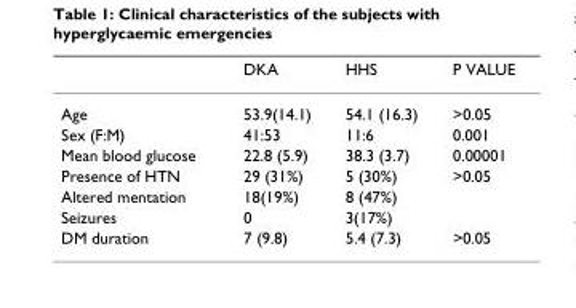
<table><thead><tr><td></td><td>DKA</td><td>HHS</td><td>P VALUE</td></tr></thead><tbody><tr><td>Age</td><td>53.9(14.1)</td><td>54.1 (16.3)</td><td>&gt;0.05</td></tr><tr><td>Sex (F:M)</td><td>41:53</td><td>11:6</td><td>0.001</td></tr><tr><td>Mean blood glucose</td><td>22.8 (5.9)</td><td>38.3 (3.7)</td><td>0.00001</td></tr><tr><td>Presence of HTN</td><td>29 (31%)</td><td>5 (30%)</td><td>&gt;0.05</td></tr><tr><td>Altered mentation</td><td>18(19%)</td><td>8 (47%)</td><td></td></tr><tr><td>Seizures</td><td>0</td><td>3(17%)</td><td></td></tr><tr><td>DM duration</td><td>7 (9.8)</td><td>5.4 (7.3)</td><td>&gt;0.05</td></tr></tbody></table>